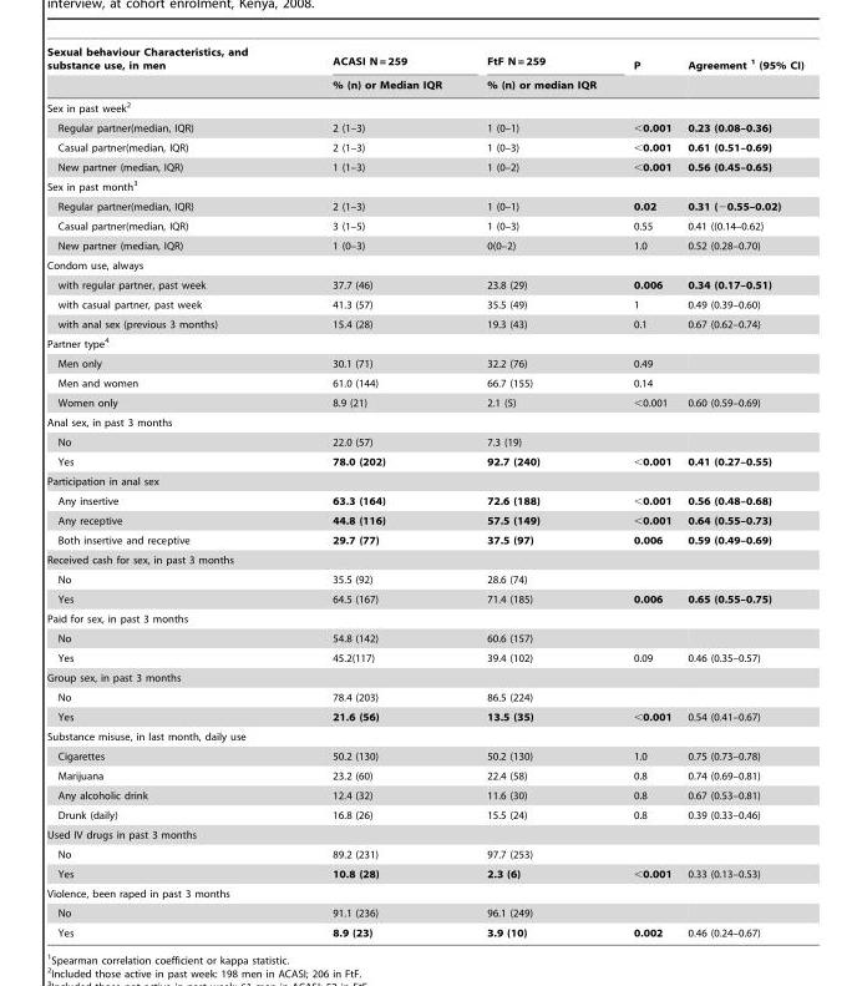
<table><thead><tr><td rowspan="2">Sexual behaviour Characteristics, and substance use, in men</td><td rowspan="2">ACASI N = 259 % (n) or Median IQR</td><td rowspan="2">FtF N = 259 % (n) or median IQR</td><td rowspan="2">P</td><td rowspan="2">Agreement 1 (95% CI)</td></tr><tr></tr></thead><tbody><tr><td colspan="5">Sex in past week<sup>2</sup></td></tr><tr><td>Regular partner(median, IQR)</td><td>2 (1–3)</td><td>1 (0–1)</td><td>&lt;0.001</td><td>0.23 (0.08–0.36)</td></tr><tr><td>Casual partner(median, IQR)</td><td>2 (1–3)</td><td>1 (0–3)</td><td>&lt;0.001</td><td>0.61 (0.51–0.69)</td></tr><tr><td>New partner (median, IQR)</td><td>1 (1–3)</td><td>1 (0–2)</td><td>&lt;0.001</td><td>0.56 (0.45–0.65)</td></tr><tr><td colspan="5">Sex in past month<sup>3</sup></td></tr><tr><td>Regular partner(median, IQR)</td><td>2 (1–3)</td><td>1 (0–1)</td><td>0.02</td><td>0.31 (−0.55–0.02)</td></tr><tr><td>Casual partner(median, IQR)</td><td>3 (1–5)</td><td>1 (0–3)</td><td>0.55</td><td>0.41 ((0.14–0.62)</td></tr><tr><td>New partner (median, IQR)</td><td>1 (0–3)</td><td>0(0–2)</td><td>1.0</td><td>0.52 (0.28–0.70)</td></tr><tr><td colspan="5">Condom use, always</td></tr><tr><td>with regular partner, past week</td><td>37.7 (46)</td><td>23.8 (29)</td><td>0.006</td><td>0.34 (0.17–0.51)</td></tr><tr><td>with casual partner, past week</td><td>41.3 (57)</td><td>35.5 (49)</td><td>1</td><td>0.49 (0.39–0.60)</td></tr><tr><td>with anal sex (previous 3 months)</td><td>15.4 (28)</td><td>19.3 (43)</td><td>0.1</td><td>0.67 (0.62–0.74)</td></tr><tr><td colspan="5">Partner type<sup>4</sup></td></tr><tr><td>Men only</td><td>30.1 (71)</td><td>32.2 (76)</td><td>0.49</td><td></td></tr><tr><td>Men and women</td><td>61.0 (144)</td><td>66.7 (155)</td><td>0.14</td><td></td></tr><tr><td>Women only</td><td>8.9 (21)</td><td>2.1 (5)</td><td>&lt;0.001</td><td>0.60 (0.59–0.69)</td></tr><tr><td colspan="5">Anal sex, in past 3 months</td></tr><tr><td>No</td><td>22.0 (57)</td><td>7.3 (19)</td><td></td><td></td></tr><tr><td>Yes</td><td>78.0 (202)</td><td>92.7 (240)</td><td>&lt;0.001</td><td>0.41 (0.27–0.55)</td></tr><tr><td colspan="5">Participation in anal sex</td></tr><tr><td>Any insertive</td><td>63.3 (164)</td><td>72.6 (188)</td><td>&lt;0.001</td><td>0.56 (0.48–0.68)</td></tr><tr><td>Any receptive</td><td>44.8 (116)</td><td>57.5 (149)</td><td>&lt;0.001</td><td>0.64 (0.55–0.73)</td></tr><tr><td>Both insertive and receptive</td><td>29.7 (77)</td><td>37.5 (97)</td><td>0.006</td><td>0.59 (0.49–0.69)</td></tr><tr><td colspan="5">Received cash for sex, in past 3 months</td></tr><tr><td>No</td><td>35.5 (92)</td><td>28.6 (74)</td><td></td><td></td></tr><tr><td>Yes</td><td>64.5 (167)</td><td>71.4 (185)</td><td>0.006</td><td>0.65 (0.55–0.75)</td></tr><tr><td colspan="5">Paid for sex, in past 3 months</td></tr><tr><td>No</td><td>54.8 (142)</td><td>60.6 (157)</td><td></td><td></td></tr><tr><td>Yes</td><td>45.2(117)</td><td>39.4 (102)</td><td>0.09</td><td>0.46 (0.35–0.57)</td></tr><tr><td colspan="5">Group sex, in past 3 months</td></tr><tr><td>No</td><td>78.4 (203)</td><td>86.5 (224)</td><td></td><td></td></tr><tr><td>Yes</td><td>21.6 (56)</td><td>13.5 (35)</td><td>&lt;0.001</td><td>0.54 (0.41–0.67)</td></tr><tr><td colspan="5">Substance misuse, in last month, daily use</td></tr><tr><td>Cigarettes</td><td>50.2 (130)</td><td>50.2 (130)</td><td>1.0</td><td>0.75 (0.73–0.78)</td></tr><tr><td>Marijuana</td><td>23.2 (60)</td><td>22.4 (58)</td><td>0.8</td><td>0.74 (0.69–0.81)</td></tr><tr><td>Any alcoholic drink</td><td>12.4 (32)</td><td>11.6 (30)</td><td>0.8</td><td>0.67 (0.53–0.81)</td></tr><tr><td>Drunk (daily)</td><td>16.8 (26)</td><td>15.5 (24)</td><td>0.8</td><td>0.39 (0.33–0.46)</td></tr><tr><td colspan="5">Used IV drugs in past 3 months</td></tr><tr><td>No</td><td>89.2 (231)</td><td>97.7 (253)</td><td></td><td></td></tr><tr><td>Yes</td><td>10.8 (28)</td><td>2.3 (6)</td><td>&lt;0.001</td><td>0.33 (0.13–0.53)</td></tr><tr><td colspan="5">Violence, been raped in past 3 months</td></tr><tr><td>No</td><td>91.1 (236)</td><td>96.1 (249)</td><td></td><td></td></tr><tr><td>Yes</td><td>8.9 (23)</td><td>3.9 (10)</td><td>0.002</td><td>0.46 (0.24–0.67)</td></tr></tbody></table>